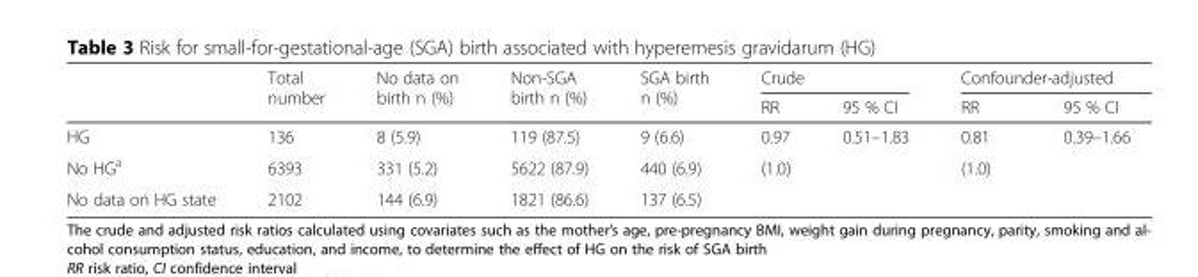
<table><thead><tr><td rowspan="2"></td><td rowspan="2">Total number</td><td rowspan="2">No data on birth n (%)</td><td rowspan="2">Non-SGA birth n (%)</td><td rowspan="2">SGA birth n (%)</td><td colspan="2">Crude</td><td colspan="2">Confounder-adjusted</td></tr><tr><td>RR</td><td>95 % CI</td><td>RR</td><td>95 % CI</td></tr></thead><tbody><tr><td>HG</td><td>136</td><td>8 (5.9)</td><td>119 (87.5)</td><td>9 (6.6)</td><td>0.97</td><td>0.51–1.83</td><td>0.81</td><td>0.39–1.66</td></tr><tr><td>No HG<sup>a</sup></td><td>6393</td><td>331 (5.2)</td><td>5622 (87.9)</td><td>440 (6.9)</td><td>(1.0)</td><td></td><td>(1.0)</td><td></td></tr><tr><td>No data on HG state</td><td>2102</td><td>144 (6.9)</td><td>1821 (86.6)</td><td>137 (6.5)</td><td></td><td></td><td></td><td></td></tr></tbody></table>